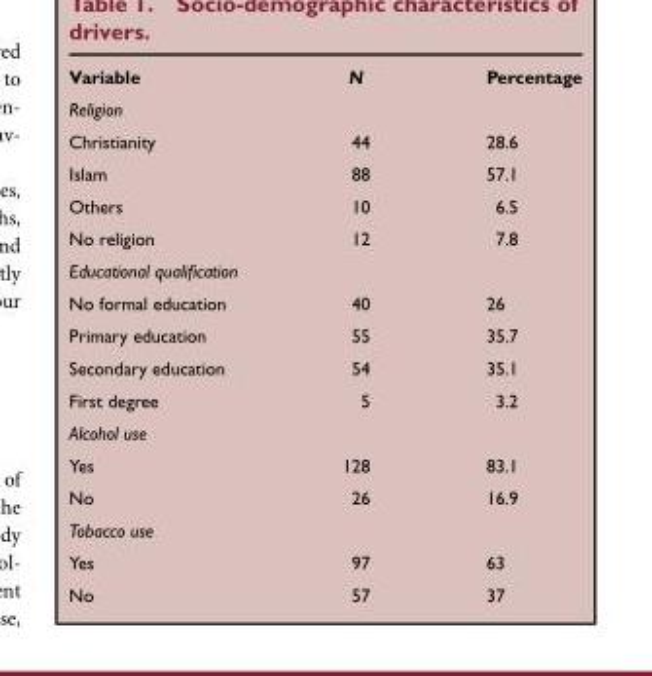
<table><thead><tr><td>Variable</td><td>N</td><td>Percentage</td></tr></thead><tbody><tr><td colspan="3">Religion</td></tr><tr><td>Christianity</td><td>44</td><td>28.6</td></tr><tr><td>Islam</td><td>88</td><td>57.1</td></tr><tr><td>Others</td><td>10</td><td>6.5</td></tr><tr><td>No religion</td><td>12</td><td>7.8</td></tr><tr><td colspan="3">Educational qualification</td></tr><tr><td>No formal education</td><td>40</td><td>26</td></tr><tr><td>Primary education</td><td>55</td><td>35.7</td></tr><tr><td>Secondary education</td><td>54</td><td>35.1</td></tr><tr><td>First degree</td><td>5</td><td>3.2</td></tr><tr><td colspan="3">Alcohol use</td></tr><tr><td>Yes</td><td>128</td><td>83.1</td></tr><tr><td>No</td><td>26</td><td>16.9</td></tr><tr><td colspan="3">Tobacco use</td></tr><tr><td>Yes</td><td>97</td><td>63</td></tr><tr><td>No</td><td>57</td><td>37</td></tr></tbody></table>